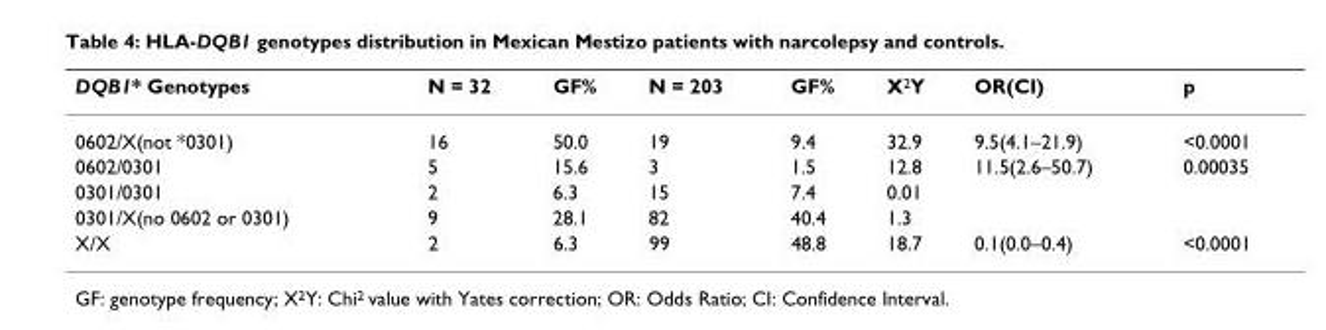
<table><thead><tr><td>DQB1* Genotypes</td><td>N = 32</td><td>GF%</td><td>N = 203</td><td>GF%</td><td>X<sup>2</sup>Y</td><td>OR(CI)</td><td>p</td></tr></thead><tbody><tr><td>0602/X(not *0301)</td><td>16</td><td>50.0</td><td>19</td><td>9.4</td><td>32.9</td><td>9.5(4.1–21.9)</td><td>&lt;0.0001</td></tr><tr><td>0602/0301</td><td>5</td><td>15.6</td><td>3</td><td>1.5</td><td>12.8</td><td>11.5(2.6–50.7)</td><td>0.00035</td></tr><tr><td>0301/0301</td><td>2</td><td>6.3</td><td>15</td><td>7.4</td><td>0.01</td><td></td><td></td></tr><tr><td>0301/X(no 0602 or 0301)</td><td>9</td><td>28.1</td><td>82</td><td>40.4</td><td>1.3</td><td></td><td></td></tr><tr><td>X/X</td><td>2</td><td>6.3</td><td>99</td><td>48.8</td><td>18.7</td><td>0.1(0.0–0.4)</td><td>&lt;0.0001</td></tr></tbody></table>